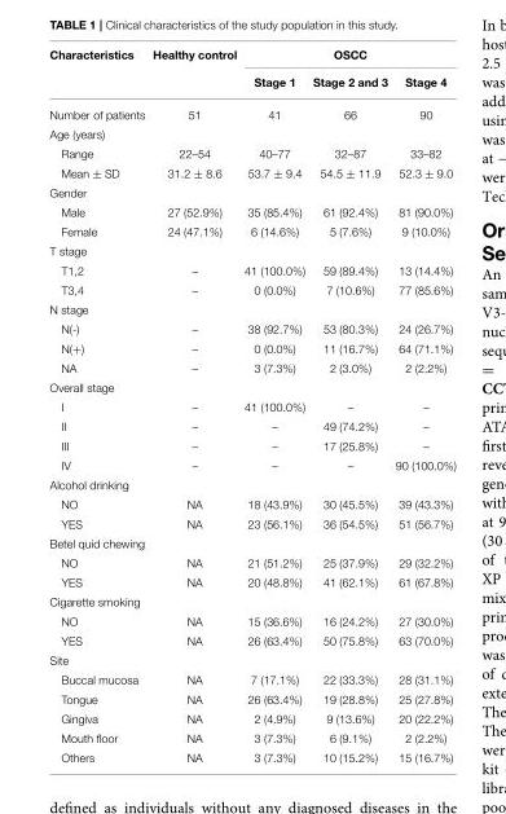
<table><thead><tr><td rowspan="2">Characteristics</td><td rowspan="2">Healthy control</td><td colspan="3">OSCC</td></tr><tr><td>Stage 1</td><td>Stage 2 and 3</td><td>Stage 4</td></tr></thead><tbody><tr><td>Number of patients</td><td>51</td><td>41</td><td>66</td><td>90</td></tr><tr><td colspan="5">Age (years)</td></tr><tr><td>Range</td><td>22–54</td><td>40–77</td><td>32–87</td><td>33–82</td></tr><tr><td>Mean ± SD</td><td>31.2 ± 8.6</td><td>53.7 ± 9.4</td><td>54.5 ± 11.9</td><td>52.3 ± 9.0</td></tr><tr><td colspan="5">Gender</td></tr><tr><td>Male</td><td>27 (52.9%)</td><td>35 (85.4%)</td><td>61 (92.4%)</td><td>81 (90.0%)</td></tr><tr><td>Female</td><td>24 (47.1%)</td><td>6 (14.6%)</td><td>5 (7.6%)</td><td>9 (10.0%)</td></tr><tr><td colspan="5">T stage</td></tr><tr><td>T1,2</td><td>–</td><td>41 (100.0%)</td><td>59 (89.4%)</td><td>13 (14.4%)</td></tr><tr><td>T3,4</td><td>–</td><td>0 (0.0%)</td><td>7 (10.6%)</td><td>77 (85.6%)</td></tr><tr><td colspan="5">N stage</td></tr><tr><td>N(-)</td><td>–</td><td>38 (92.7%)</td><td>53 (80.3%)</td><td>24 (26.7%)</td></tr><tr><td>N(+)</td><td>–</td><td>0 (0.0%)</td><td>11 (16.7%)</td><td>64 (71.1%)</td></tr><tr><td>NA</td><td>–</td><td>3 (7.3%)</td><td>2 (3.0%)</td><td>2 (2.2%)</td></tr><tr><td colspan="5">Overall stage</td></tr><tr><td>I</td><td>–</td><td>41 (100.0%)</td><td>–</td><td>–</td></tr><tr><td>II</td><td>–</td><td>–</td><td>49 (74.2%)</td><td>–</td></tr><tr><td>III</td><td>–</td><td>–</td><td>17 (25.8%)</td><td>–</td></tr><tr><td>IV</td><td>–</td><td>–</td><td>–</td><td>90 (100.0%)</td></tr><tr><td colspan="5">Alcohol drinking</td></tr><tr><td>NO</td><td>NA</td><td>18 (43.9%)</td><td>30 (45.5%)</td><td>39 (43.3%)</td></tr><tr><td>YES</td><td>NA</td><td>23 (56.1%)</td><td>36 (54.5%)</td><td>51 (56.7%)</td></tr><tr><td colspan="5">Betel quid chewing</td></tr><tr><td>NO</td><td>NA</td><td>21 (51.2%)</td><td>25 (37.9%)</td><td>29 (32.2%)</td></tr><tr><td>YES</td><td>NA</td><td>20 (48.8%)</td><td>41 (62.1%)</td><td>61 (67.8%)</td></tr><tr><td colspan="5">Cigarette smoking</td></tr><tr><td>NO</td><td>NA</td><td>15 (36.6%)</td><td>16 (24.2%)</td><td>27 (30.0%)</td></tr><tr><td>YES</td><td>NA</td><td>26 (63.4%)</td><td>50 (75.8%)</td><td>63 (70.0%)</td></tr><tr><td colspan="5">Site</td></tr><tr><td>Buccal mucosa</td><td>NA</td><td>7 (17.1%)</td><td>22 (33.3%)</td><td>28 (31.1%)</td></tr><tr><td>Tongue</td><td>NA</td><td>26 (63.4%)</td><td>19 (28.8%)</td><td>25 (27.8%)</td></tr><tr><td>Gingiva</td><td>NA</td><td>2 (4.9%)</td><td>9 (13.6%)</td><td>20 (22.2%)</td></tr><tr><td>Mouth floor</td><td>NA</td><td>3 (7.3%)</td><td>6 (9.1%)</td><td>2 (2.2%)</td></tr><tr><td>Others</td><td>NA</td><td>3 (7.3%)</td><td>10 (15.2%)</td><td>15 (16.7%)</td></tr></tbody></table>